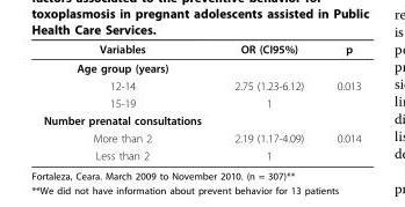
<table><thead><tr><td>Variables</td><td>OR (CI95%)</td><td>p</td></tr></thead><tbody><tr><td colspan="3">Age group (years)</td></tr><tr><td>12-14</td><td>2.75 (1.23-6.12)</td><td>0.013</td></tr><tr><td>15-19</td><td>1</td><td></td></tr><tr><td colspan="3">Number prenatal consultations</td></tr><tr><td>More than 2</td><td>2.19 (1.17-4.09)</td><td>0.014</td></tr><tr><td>Less than 2</td><td>1</td><td></td></tr></tbody></table>